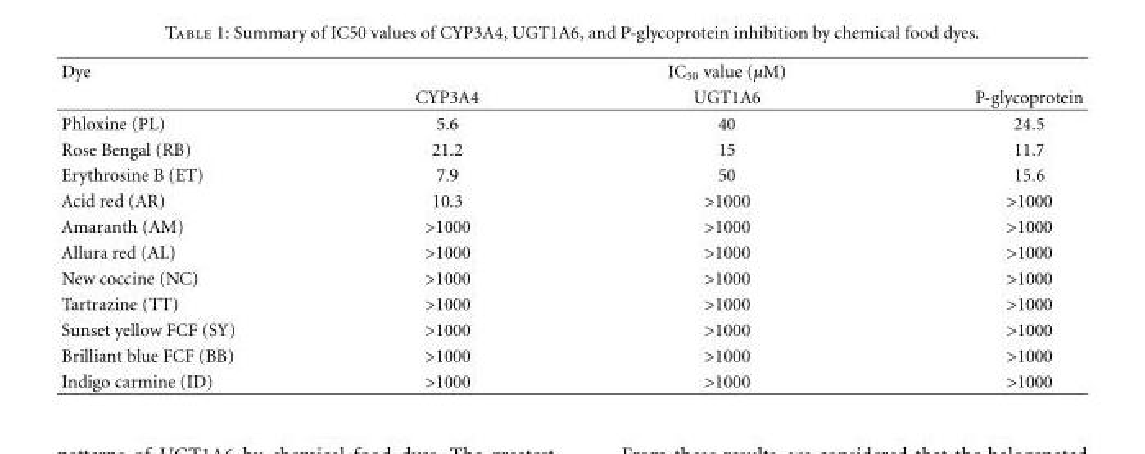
<table><thead><tr><td rowspan="2">Dye</td><td rowspan="2">CYP3A4</td><td rowspan="2">IC<sub>50</sub> value (μM) UGT1A6</td><td rowspan="2">P-glycoprotein</td></tr><tr></tr></thead><tbody><tr><td>Phloxine (PL)</td><td>5.6</td><td>40</td><td>24.5</td></tr><tr><td>Rose Bengal (RB)</td><td>21.2</td><td>15</td><td>11.7</td></tr><tr><td>Erythrosine B (ET)</td><td>7.9</td><td>50</td><td>15.6</td></tr><tr><td>Acid red (AR)</td><td>10.3</td><td>&gt;1000</td><td>&gt;1000</td></tr><tr><td>Amaranth (AM)</td><td>&gt;1000</td><td>&gt;1000</td><td>&gt;1000</td></tr><tr><td>Allura red (AL)</td><td>&gt;1000</td><td>&gt;1000</td><td>&gt;1000</td></tr><tr><td>New coccine (NC)</td><td>&gt;1000</td><td>&gt;1000</td><td>&gt;1000</td></tr><tr><td>Tartrazine (TT)</td><td>&gt;1000</td><td>&gt;1000</td><td>&gt;1000</td></tr><tr><td>Sunset yellow FCF (SY)</td><td>&gt;1000</td><td>&gt;1000</td><td>&gt;1000</td></tr><tr><td>Brilliant blue FCF (BB)</td><td>&gt;1000</td><td>&gt;1000</td><td>&gt;1000</td></tr><tr><td>Indigo carmine (ID)</td><td>&gt;1000</td><td>&gt;1000</td><td>&gt;1000</td></tr></tbody></table>